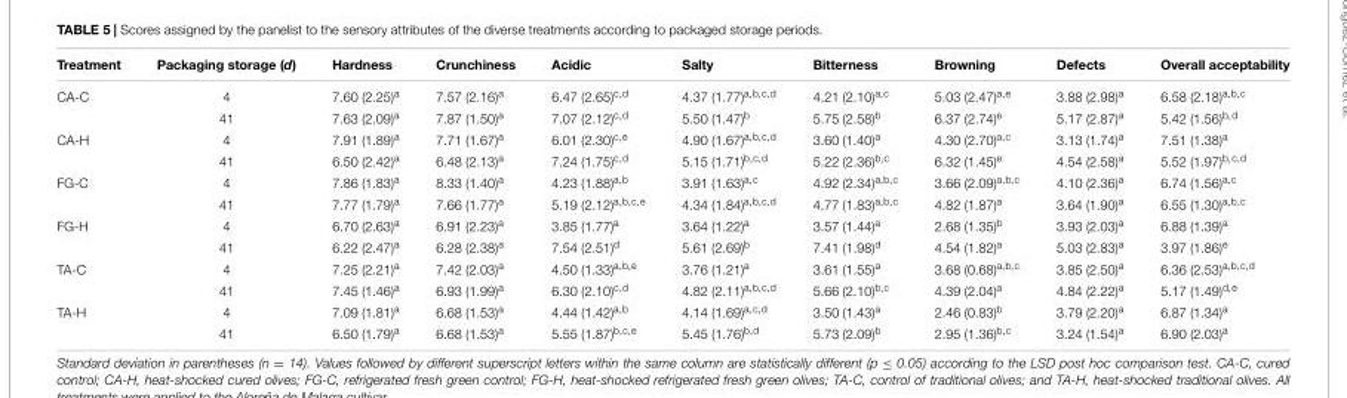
<table><thead><tr><td>Treatment</td><td>Packaging storage (d)</td><td>Hardness</td><td>Crunchiness</td><td>Acidic</td><td>Salty</td><td>Bitterness</td><td>Browning</td><td>Defects</td><td>Overall acceptability</td></tr></thead><tbody><tr><td rowspan="2">CA-C</td><td>4</td><td>7.60 (2.25)<sup>a</sup></td><td>7.57 (2.16)<sup>a</sup></td><td>6.47 (2.65)<sup>c,d</sup></td><td>4.37 (1.77)<sup>a,b,c,d</sup></td><td>4.21 (2.10)<sup>a,c</sup></td><td>5.03 (2.47)<sup>a,e</sup></td><td>3.88 (2.98)<sup>a</sup></td><td>6.58 (2.18)<sup>a,b,c</sup></td></tr><tr><td>41</td><td>7.63 (2.09)<sup>a</sup></td><td>7.87 (1.50)<sup>a</sup></td><td>7.07 (2.12)<sup>c,d</sup></td><td>5.50 (1.47)<sup>b</sup></td><td>5.75 (2.58)<sup>b</sup></td><td>6.37 (2.74)<sup>e</sup></td><td>5.17 (2.87)<sup>a</sup></td><td>5.42 (1.56)<sup>b,d</sup></td></tr><tr><td rowspan="2">CA-H</td><td>4</td><td>7.91 (1.89)<sup>a</sup></td><td>7.71 (1.67)<sup>a</sup></td><td>6.01 (2.30)<sup>c,e</sup></td><td>4.90 (1.67)<sup>a,b,c,d</sup></td><td>3.60 (1.40)<sup>a</sup></td><td>4.30 (2.70)<sup>a,c</sup></td><td>3.13 (1.74)<sup>a</sup></td><td>7.51 (1.38)<sup>a</sup></td></tr><tr><td>41</td><td>6.50 (2.42)<sup>a</sup></td><td>6.48 (2.13)<sup>a</sup></td><td>7.24 (1.75)<sup>c,d</sup></td><td>5.15 (1.71)<sup>b,c,d</sup></td><td>5.22 (2.36)<sup>b,c</sup></td><td>6.32 (1.45)<sup>e</sup></td><td>4.54 (2.58)<sup>a</sup></td><td>5.52 (1.97)<sup>b,c,d</sup></td></tr><tr><td rowspan="2">FG-C</td><td>4</td><td>7.86 (1.83)<sup>a</sup></td><td>8.33 (1.40)<sup>a</sup></td><td>4.23 (1.88)<sup>a,b</sup></td><td>3.91 (1.63)<sup>a,c</sup></td><td>4.92 (2.34)<sup>a,b,c</sup></td><td>3.66 (2.09)<sup>a,b,c</sup></td><td>4.10 (2.36)<sup>a</sup></td><td>6.74 (1.56)<sup>a,c</sup></td></tr><tr><td>41</td><td>7.77 (1.79)<sup>a</sup></td><td>7.66 (1.77)<sup>a</sup></td><td>5.19 (2.12)<sup>a,b,c,e</sup></td><td>4.34 (1.84)<sup>a,b,c,d</sup></td><td>4.77 (1.83)<sup>a,b,c</sup></td><td>4.82 (1.87)<sup>a</sup></td><td>3.64 (1.90)<sup>a</sup></td><td>6.55 (1.30)<sup>a,b,c</sup></td></tr><tr><td rowspan="2">FG-H</td><td>4</td><td>6.70 (2.63)<sup>a</sup></td><td>6.91 (2.23)<sup>a</sup></td><td>3.85 (1.77)<sup>a</sup></td><td>3.64 (1.22)<sup>a</sup></td><td>3.57 (1.44)<sup>a</sup></td><td>2.68 (1.35)<sup>b</sup></td><td>3.93 (2.03)<sup>a</sup></td><td>6.88 (1.39)<sup>a</sup></td></tr><tr><td>41</td><td>6.22 (2.47)<sup>a</sup></td><td>6.28 (2.38)<sup>a</sup></td><td>7.54 (2.51)<sup>d</sup></td><td>5.61 (2.69)<sup>b</sup></td><td>7.41 (1.98)<sup>d</sup></td><td>4.54 (1.82)<sup>a</sup></td><td>5.03 (2.83)<sup>a</sup></td><td>3.97 (1.86)<sup>e</sup></td></tr><tr><td rowspan="2">TA-C</td><td>4</td><td>7.25 (2.21)<sup>a</sup></td><td>7.42 (2.03)<sup>a</sup></td><td>4.50 (1.33)<sup>a,b,e</sup></td><td>3.76 (1.21)<sup>a</sup></td><td>3.61 (1.55)<sup>a</sup></td><td>3.68 (0.68)<sup>a,b,c</sup></td><td>3.85 (2.50)<sup>a</sup></td><td>6.36 (2.53)<sup>a,b,c,d</sup></td></tr><tr><td>41</td><td>7.45 (1.46)<sup>a</sup></td><td>6.93 (1.99)<sup>a</sup></td><td>6.30 (2.10)<sup>c,d</sup></td><td>4.82 (2.11)<sup>a,b,c,d</sup></td><td>5.66 (2.10)<sup>b,c</sup></td><td>4.39 (2.04)<sup>a</sup></td><td>4.84 (2.22)<sup>a</sup></td><td>5.17 (1.49)<sup>d,e</sup></td></tr><tr><td rowspan="2">TA-H</td><td>4</td><td>7.09 (1.81)<sup>a</sup></td><td>6.68 (1.53)<sup>a</sup></td><td>4.44 (1.42)<sup>a,b</sup></td><td>4.14 (1.69)<sup>a,c,d</sup></td><td>3.50 (1.43)<sup>a</sup></td><td>2.46 (0.83)<sup>b</sup></td><td>3.79 (2.20)<sup>a</sup></td><td>6.87 (1.34)<sup>a</sup></td></tr><tr><td>41</td><td>6.50 (1.79)<sup>a</sup></td><td>6.68 (1.53)<sup>a</sup></td><td>5.55 (1.87)<sup>b,c,e</sup></td><td>5.45 (1.76)<sup>b,d</sup></td><td>5.73 (2.09)<sup>b</sup></td><td>2.95 (1.36)<sup>b,c</sup></td><td>3.24 (1.54)<sup>a</sup></td><td>6.90 (2.03)<sup>a</sup></td></tr></tbody></table>